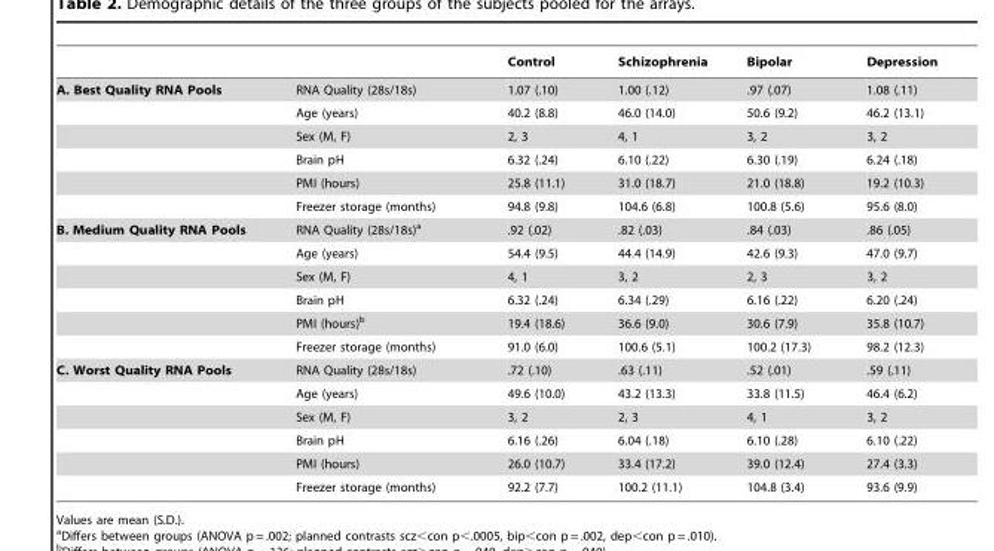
<table><thead><tr><td></td><td></td><td>Control</td><td>Schizophrenia</td><td>Bipolar</td><td>Depression</td></tr></thead><tbody><tr><td rowspan="6">A. Best Quality RNA Pools</td><td>RNA Quality (28s/18s)</td><td>1.07 (.10)</td><td>1.00 (.12)</td><td>.97 (.07)</td><td>1.08 (.11)</td></tr><tr><td>Age (years)</td><td>40.2 (8.8)</td><td>46.0 (14.0)</td><td>50.6 (9.2)</td><td>46.2 (13.1)</td></tr><tr><td>Sex (M, F)</td><td>2, 3</td><td>4, 1</td><td>3, 2</td><td>3, 2</td></tr><tr><td>Brain pH</td><td>6.32 (.24)</td><td>6.10 (.22)</td><td>6.30 (.19)</td><td>6.24 (.18)</td></tr><tr><td>PMI (hours)</td><td>25.8 (11.1)</td><td>31.0 (18.7)</td><td>21.0 (18.8)</td><td>19.2 (10.3)</td></tr><tr><td>Freezer storage (months)</td><td>94.8 (9.8)</td><td>104.6 (6.8)</td><td>100.8 (5.6)</td><td>95.6 (8.0)</td></tr><tr><td rowspan="6">B. Medium Quality RNA Pools</td><td>RNA Quality (28s/18s)<sup>a</sup></td><td>.92 (.02)</td><td>.82 (.03)</td><td>.84 (.03)</td><td>.86 (.05)</td></tr><tr><td>Age (years)</td><td>54.4 (9.5)</td><td>44.4 (14.9)</td><td>42.6 (9.3)</td><td>47.0 (9.7)</td></tr><tr><td>Sex (M, F)</td><td>4, 1</td><td>3, 2</td><td>2, 3</td><td>3, 2</td></tr><tr><td>Brain pH</td><td>6.32 (.24)</td><td>6.34 (.29)</td><td>6.16 (.22)</td><td>6.20 (.24)</td></tr><tr><td>PMI (hours)<sup>b</sup></td><td>19.4 (18.6)</td><td>36.6 (9.0)</td><td>30.6 (7.9)</td><td>35.8 (10.7)</td></tr><tr><td>Freezer storage (months)</td><td>91.0 (6.0)</td><td>100.6 (5.1)</td><td>100.2 (17.3)</td><td>98.2 (12.3)</td></tr><tr><td rowspan="6">C. Worst Quality RNA Pools</td><td>RNA Quality (28s/18s)</td><td>.72 (.10)</td><td>.63 (.11)</td><td>.52 (.01)</td><td>.59 (.11)</td></tr><tr><td>Age (years)</td><td>49.6 (10.0)</td><td>43.2 (13.3)</td><td>33.8 (11.5)</td><td>46.4 (6.2)</td></tr><tr><td>Sex (M, F)</td><td>3, 2</td><td>2, 3</td><td>4, 1</td><td>3, 2</td></tr><tr><td>Brain pH</td><td>6.16 (.26)</td><td>6.04 (.18)</td><td>6.10 (.28)</td><td>6.10 (.22)</td></tr><tr><td>PMI (hours)</td><td>26.0 (10.7)</td><td>33.4 (17.2)</td><td>39.0 (12.4)</td><td>27.4 (3.3)</td></tr><tr><td>Freezer storage (months)</td><td>92.2 (7.7)</td><td>100.2 (11.1)</td><td>104.8 (3.4)</td><td>93.6 (9.9)</td></tr></tbody></table>